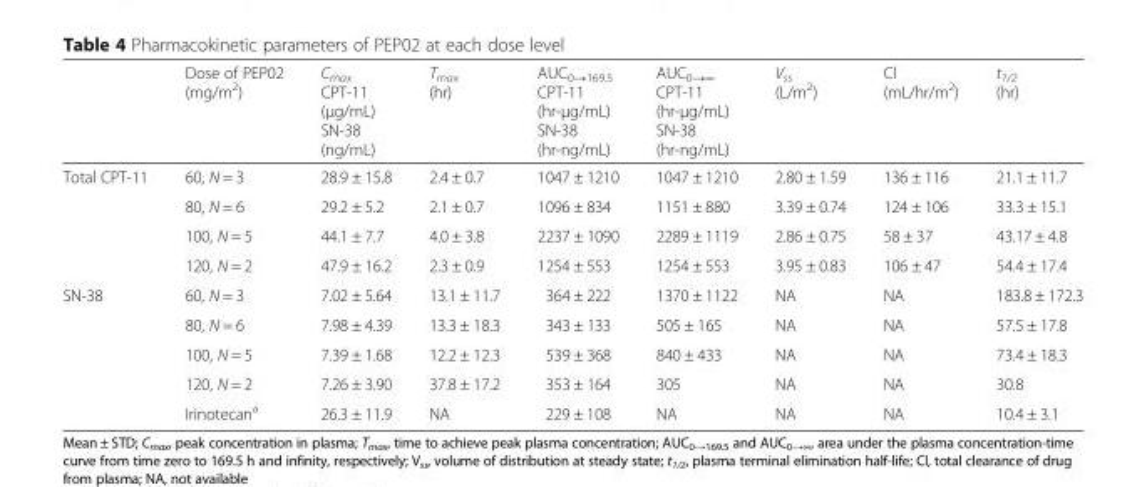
<table><thead><tr><td></td><td>Dose of PEP02 (mg/m<sup>2</sup>)</td><td>C<sub>max</sub> CPT-11 (μg/mL) SN-38 (ng/mL)</td><td>T<sub>max</sub> (hr)</td><td>AUC<sub>0→169.5</sub> CPT-11 (hr-μg/mL) SN-38 (hr-ng/mL)</td><td>AUC<sub>0→∞</sub> CPT-11 (hr-μg/mL) SN-38 (hr-ng/mL)</td><td>V<sub>ss</sub> (L/m<sup>2</sup>)</td><td>Cl (mL/hr/m<sup>2</sup>)</td><td>t<sub>1/2</sub> (hr)</td></tr></thead><tbody><tr><td rowspan="4">Total CPT-11</td><td>60, N = 3</td><td>28.9 ± 15.8</td><td>2.4 ± 0.7</td><td>1047 ± 1210</td><td>1047 ± 1210</td><td>2.80 ± 1.59</td><td>136 ± 116</td><td>21.1 ± 11.7</td></tr><tr><td>80, N = 6</td><td>29.2 ± 5.2</td><td>2.1 ± 0.7</td><td>1096 ± 834</td><td>1151 ± 880</td><td>3.39 ± 0.74</td><td>124 ± 106</td><td>33.3 ± 15.1</td></tr><tr><td>100, N = 5</td><td>44.1 ± 7.7</td><td>4.0 ± 3.8</td><td>2237 ± 1090</td><td>2289 ± 1119</td><td>2.86 ± 0.75</td><td>58 ± 37</td><td>43.17 ± 4.8</td></tr><tr><td>120, N = 2</td><td>47.9 ± 16.2</td><td>2.3 ± 0.9</td><td>1254 ± 553</td><td>1254 ± 553</td><td>3.95 ± 0.83</td><td>106 ± 47</td><td>54.4 ± 17.4</td></tr><tr><td rowspan="5">SN-38</td><td>60, N = 3</td><td>7.02 ± 5.64</td><td>13.1 ± 11.7</td><td>364 ± 222</td><td>1370 ± 1122</td><td>NA</td><td>NA</td><td>183.8 ± 172.3</td></tr><tr><td>80, N = 6</td><td>7.98 ± 4.39</td><td>13.3 ± 18.3</td><td>343 ± 133</td><td>505 ± 165</td><td>NA</td><td>NA</td><td>57.5 ± 17.8</td></tr><tr><td>100, N = 5</td><td>7.39 ± 1.68</td><td>12.2 ± 12.3</td><td>539 ± 368</td><td>840 ± 433</td><td>NA</td><td>NA</td><td>73.4 ± 18.3</td></tr><tr><td>120, N = 2</td><td>7.26 ± 3.90</td><td>37.8 ± 17.2</td><td>353 ± 164</td><td>305</td><td>NA</td><td>NA</td><td>30.8</td></tr><tr><td>Irinotecan<sup>a</sup></td><td>26.3 ± 11.9</td><td>NA</td><td>229 ± 108</td><td>NA</td><td>NA</td><td>NA</td><td>10.4 ± 3.1</td></tr></tbody></table>